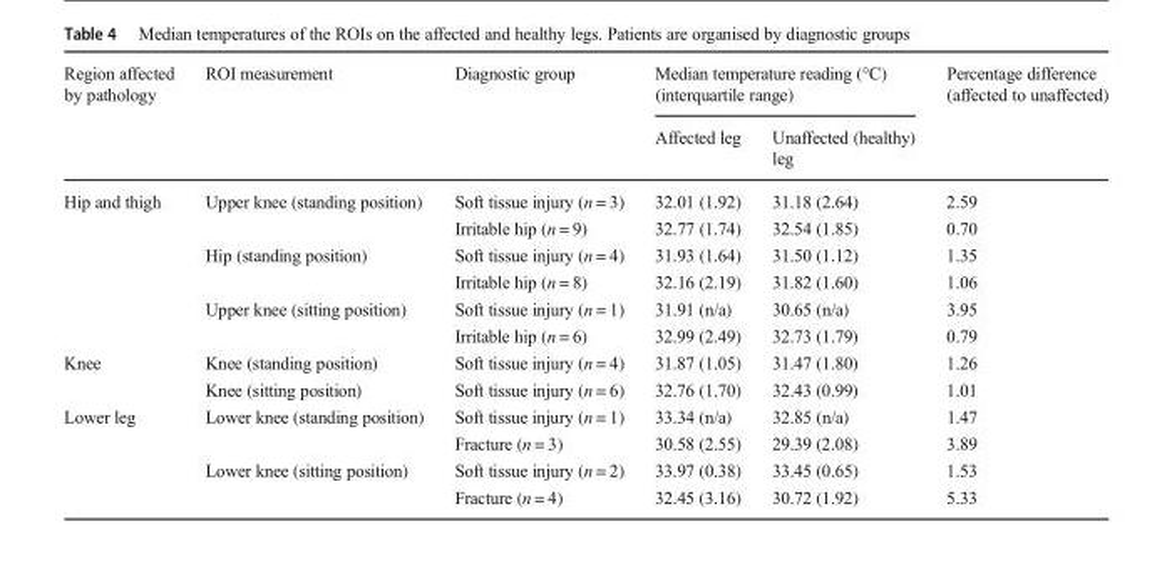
<table><thead><tr><td rowspan="2">Region affected by pathology</td><td rowspan="2">ROI measurement</td><td rowspan="2">Diagnostic group</td><td colspan="2">Median temperature reading (°C) (interquartile range)</td><td rowspan="2">Percentage difference (affected to unaffected)</td></tr><tr><td>Affected leg</td><td>Unaffected (healthy) leg</td></tr></thead><tbody><tr><td rowspan="6">Hip and thigh</td><td rowspan="2">Upper knee (standing position)</td><td>Soft tissue injury (n = 3)</td><td>32.01 (1.92)</td><td>31.18 (2.64)</td><td>2.59</td></tr><tr><td>Irritable hip (n = 9)</td><td>32.77 (1.74)</td><td>32.54 (1.85)</td><td>0.70</td></tr><tr><td rowspan="2">Hip (standing position)</td><td>Soft tissue injury (n = 4)</td><td>31.93 (1.64)</td><td>31.50 (1.12)</td><td>1.35</td></tr><tr><td>Irritable hip (n = 8)</td><td>32.16 (2.19)</td><td>31.82 (1.60)</td><td>1.06</td></tr><tr><td rowspan="2">Upper knee (sitting position)</td><td>Soft tissue injury (n = 1)</td><td>31.91 (n/a)</td><td>30.65 (n/a)</td><td>3.95</td></tr><tr><td>Irritable hip (n = 6)</td><td>32.99 (2.49)</td><td>32.73 (1.79)</td><td>0.79</td></tr><tr><td rowspan="2">Knee</td><td>Knee (standing position)</td><td>Soft tissue injury (n = 4)</td><td>31.87 (1.05)</td><td>31.47 (1.80)</td><td>1.26</td></tr><tr><td>Knee (sitting position)</td><td>Soft tissue injury (n = 6)</td><td>32.76 (1.70)</td><td>32.43 (0.99)</td><td>1.01</td></tr><tr><td rowspan="4">Lower leg</td><td rowspan="2">Lower knee (standing position)</td><td>Soft tissue injury (n = 1)</td><td>33.34 (n/a)</td><td>32.85 (n/a)</td><td>1.47</td></tr><tr><td>Fracture (n = 3)</td><td>30.58 (2.55)</td><td>29.39 (2.08)</td><td>3.89</td></tr><tr><td rowspan="2">Lower knee (sitting position)</td><td>Soft tissue injury (n = 2)</td><td>33.97 (0.38)</td><td>33.45 (0.65)</td><td>1.53</td></tr><tr><td>Fracture (n = 4)</td><td>32.45 (3.16)</td><td>30.72 (1.92)</td><td>5.33</td></tr></tbody></table>